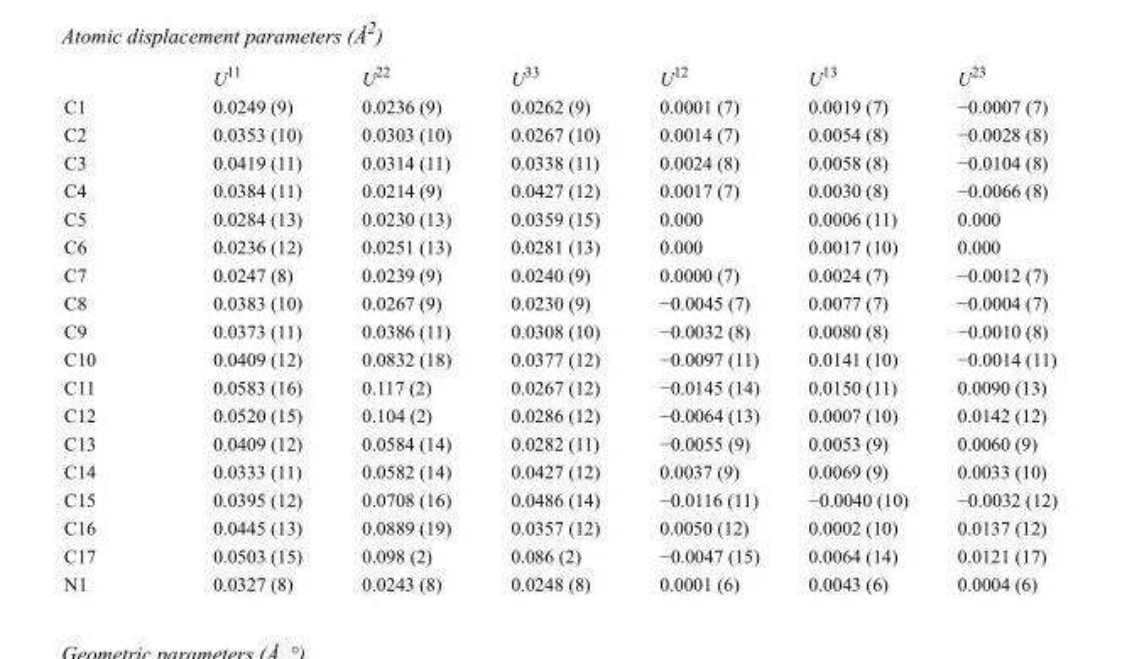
<table><thead><tr><td></td><td>U<sup>11</sup></td><td>U<sup>22</sup></td><td>U<sup>33</sup></td><td>U<sup>12</sup></td><td>U<sup>13</sup></td><td>U<sup>23</sup></td></tr></thead><tbody><tr><td>C1</td><td>0.0249 (9)</td><td>0.0236 (9)</td><td>0.0262 (9)</td><td>0.0001 (7)</td><td>0.0019 (7)</td><td>−0.0007 (7)</td></tr><tr><td>C2</td><td>0.0353 (10)</td><td>0.0303 (10)</td><td>0.0267 (10)</td><td>0.0014 (7)</td><td>0.0054 (8)</td><td>−0.0028 (8)</td></tr><tr><td>C3</td><td>0.0419 (11)</td><td>0.0314 (11)</td><td>0.0338 (11)</td><td>0.0024 (8)</td><td>0.0058 (8)</td><td>−0.0104 (8)</td></tr><tr><td>C4</td><td>0.0384 (11)</td><td>0.0214 (9)</td><td>0.0427 (12)</td><td>0.0017 (7)</td><td>0.0030 (8)</td><td>−0.0066 (8)</td></tr><tr><td>C5</td><td>0.0284 (13)</td><td>0.0230 (13)</td><td>0.0359 (15)</td><td>0.000</td><td>0.0006 (11)</td><td>0.000</td></tr><tr><td>C6</td><td>0.0236 (12)</td><td>0.0251 (13)</td><td>0.0281 (13)</td><td>0.000</td><td>0.0017 (10)</td><td>0.000</td></tr><tr><td>C7</td><td>0.0247 (8)</td><td>0.0239 (9)</td><td>0.0240 (9)</td><td>0.0000 (7)</td><td>0.0024 (7)</td><td>−0.0012 (7)</td></tr><tr><td>C8</td><td>0.0383 (10)</td><td>0.0267 (9)</td><td>0.0230 (9)</td><td>−0.0045 (7)</td><td>0.0077 (7)</td><td>−0.0004 (7)</td></tr><tr><td>C9</td><td>0.0373 (11)</td><td>0.0386 (11)</td><td>0.0308 (10)</td><td>−0.0032 (8)</td><td>0.0080 (8)</td><td>−0.0010 (8)</td></tr><tr><td>C10</td><td>0.0409 (12)</td><td>0.0832 (18)</td><td>0.0377 (12)</td><td>−0.0097 (11)</td><td>0.0141 (10)</td><td>−0.0014 (11)</td></tr><tr><td>C11</td><td>0.0583 (16)</td><td>0.117 (2)</td><td>0.0267 (12)</td><td>−0.0145 (14)</td><td>0.0150 (11)</td><td>0.0090 (13)</td></tr><tr><td>C12</td><td>0.0520 (15)</td><td>0.104 (2)</td><td>0.0286 (12)</td><td>−0.0064 (13)</td><td>0.0007 (10)</td><td>0.0142 (12)</td></tr><tr><td>C13</td><td>0.0409 (12)</td><td>0.0584 (14)</td><td>0.0282 (11)</td><td>−0.0055 (9)</td><td>0.0053 (9)</td><td>0.0060 (9)</td></tr><tr><td>C14</td><td>0.0333 (11)</td><td>0.0582 (14)</td><td>0.0427 (12)</td><td>0.0037 (9)</td><td>0.0069 (9)</td><td>0.0033 (10)</td></tr><tr><td>C15</td><td>0.0395 (12)</td><td>0.0708 (16)</td><td>0.0486 (14)</td><td>−0.0116 (11)</td><td>−0.0040 (10)</td><td>−0.0032 (12)</td></tr><tr><td>C16</td><td>0.0445 (13)</td><td>0.0889 (19)</td><td>0.0357 (12)</td><td>0.0050 (12)</td><td>0.0002 (10)</td><td>0.0137 (12)</td></tr><tr><td>C17</td><td>0.0503 (15)</td><td>0.098 (2)</td><td>0.086 (2)</td><td>−0.0047 (15)</td><td>0.0064 (14)</td><td>0.0121 (17)</td></tr><tr><td>N1</td><td>0.0327 (8)</td><td>0.0243 (8)</td><td>0.0248 (8)</td><td>0.0001 (6)</td><td>0.0043 (6)</td><td>0.0004 (6)</td></tr></tbody></table>